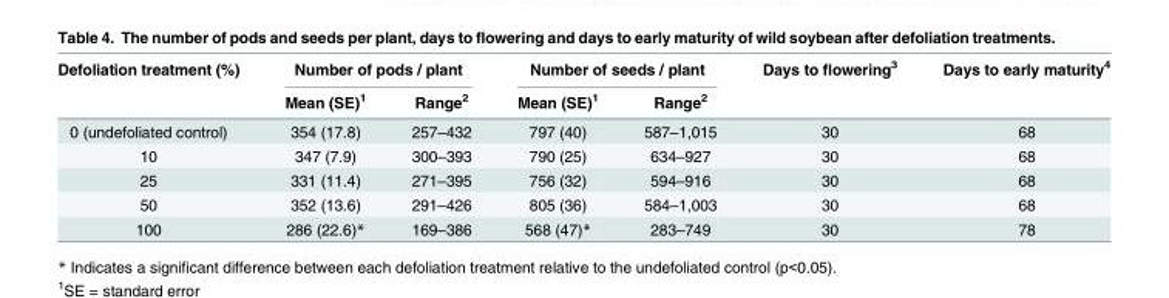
<table><thead><tr><td rowspan="2">Defoliation treatment (%)</td><td colspan="2">Number of pods / plant</td><td colspan="2">Number of seeds / plant</td><td rowspan="2">Days to flowering<sup>3</sup></td><td rowspan="2">Days to early maturity<sup>4</sup></td></tr><tr><td>Mean (SE)<sup>1</sup></td><td>Range<sup>2</sup></td><td>Mean (SE)<sup>1</sup></td><td>Range<sup>2</sup></td></tr></thead><tbody><tr><td>0 (undefoliated control)</td><td>354 (17.8)</td><td>257–432</td><td>797 (40)</td><td>587–1,015</td><td>30</td><td>68</td></tr><tr><td>10</td><td>347 (7.9)</td><td>300–393</td><td>790 (25)</td><td>634–927</td><td>30</td><td>68</td></tr><tr><td>25</td><td>331 (11.4)</td><td>271–395</td><td>756 (32)</td><td>594–916</td><td>30</td><td>68</td></tr><tr><td>50</td><td>352 (13.6)</td><td>291–426</td><td>805 (36)</td><td>584–1,003</td><td>30</td><td>68</td></tr><tr><td>100</td><td>286 (22.6)*</td><td>169–386</td><td>568 (47)*</td><td>283–749</td><td>30</td><td>78</td></tr></tbody></table>